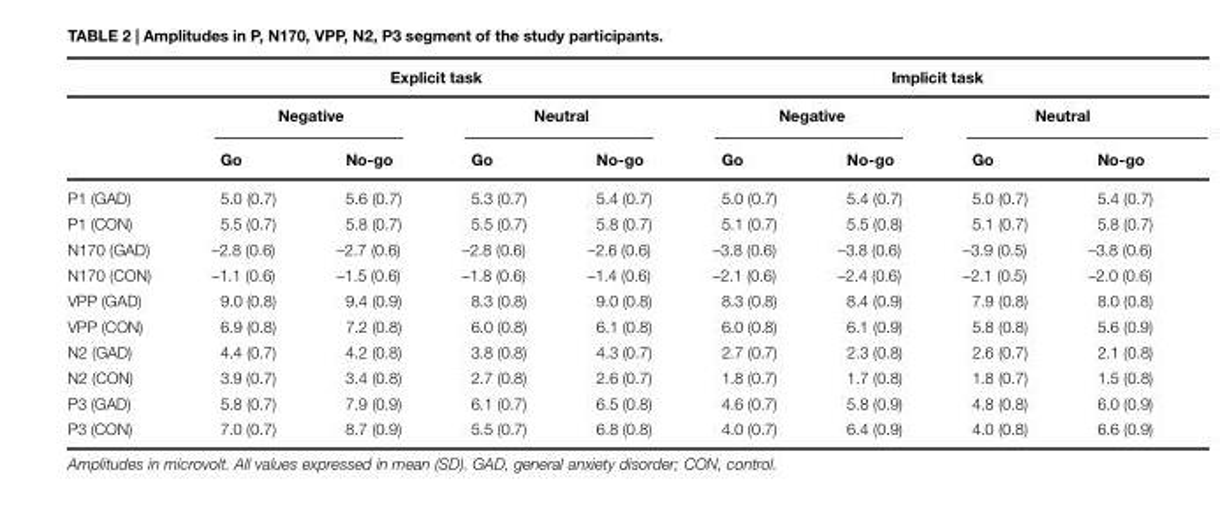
<table><thead><tr><td rowspan="3"></td><td colspan="4">Explicit task</td><td colspan="4">Implicit task</td></tr><tr><td colspan="2">Negative</td><td colspan="2">Neutral</td><td colspan="2">Negative</td><td colspan="2">Neutral</td></tr><tr><td>Go</td><td>No-go</td><td>Go</td><td>No-go</td><td>Go</td><td>No-go</td><td>Go</td><td>No-go</td></tr></thead><tbody><tr><td>P1 (GAD)</td><td>5.0 (0.7)</td><td>5.6 (0.7)</td><td>5.3 (0.7)</td><td>5.4 (0.7)</td><td>5.0 (0.7)</td><td>5.4 (0.7)</td><td>5.0 (0.7)</td><td>5.4 (0.7)</td></tr><tr><td>P1 (CON)</td><td>5.5 (0.7)</td><td>5.8 (0.7)</td><td>5.5 (0.7)</td><td>5.8 (0.7)</td><td>5.1 (0.7)</td><td>5.5 (0.8)</td><td>5.1 (0.7)</td><td>5.8 (0.7)</td></tr><tr><td>N170 (GAD)</td><td>–2.8 (0.6)</td><td>–2.7 (0.6)</td><td>–2.8 (0.6)</td><td>–2.6 (0.6)</td><td>–3.8 (0.6)</td><td>–3.8 (0.6)</td><td>–3.9 (0.5)</td><td>–3.8 (0.6)</td></tr><tr><td>N170 (CON)</td><td>–1.1 (0.6)</td><td>–1.5 (0.6)</td><td>–1.8 (0.6)</td><td>–1.4 (0.6)</td><td>–2.1 (0.6)</td><td>–2.4 (0.6)</td><td>–2.1 (0.5)</td><td>–2.0 (0.6)</td></tr><tr><td>VPP (GAD)</td><td>9.0 (0.8)</td><td>9.4 (0.9)</td><td>8.3 (0.8)</td><td>9.0 (0.8)</td><td>8.3 (0.8)</td><td>8.4 (0.9)</td><td>7.9 (0.8)</td><td>8.0 (0.8)</td></tr><tr><td>VPP (CON)</td><td>6.9 (0.8)</td><td>7.2 (0.8)</td><td>6.0 (0.8)</td><td>6.1 (0.8)</td><td>6.0 (0.8)</td><td>6.1 (0.9)</td><td>5.8 (0.8)</td><td>5.6 (0.9)</td></tr><tr><td>N2 (GAD)</td><td>4.4 (0.7)</td><td>4.2 (0.8)</td><td>3.8 (0.8)</td><td>4.3 (0.7)</td><td>2.7 (0.7)</td><td>2.3 (0.8)</td><td>2.6 (0.7)</td><td>2.1 (0.8)</td></tr><tr><td>N2 (CON)</td><td>3.9 (0.7)</td><td>3.4 (0.8)</td><td>2.7 (0.8)</td><td>2.6 (0.7)</td><td>1.8 (0.7)</td><td>1.7 (0.8)</td><td>1.8 (0.7)</td><td>1.5 (0.8)</td></tr><tr><td>P3 (GAD)</td><td>5.8 (0.7)</td><td>7.9 (0.9)</td><td>6.1 (0.7)</td><td>6.5 (0.8)</td><td>4.6 (0.7)</td><td>5.8 (0.9)</td><td>4.8 (0.8)</td><td>6.0 (0.9)</td></tr><tr><td>P3 (CON)</td><td>7.0 (0.7)</td><td>8.7 (0.9)</td><td>5.5 (0.7)</td><td>6.8 (0.8)</td><td>4.0 (0.7)</td><td>6.4 (0.9)</td><td>4.0 (0.8)</td><td>6.6 (0.9)</td></tr></tbody></table>